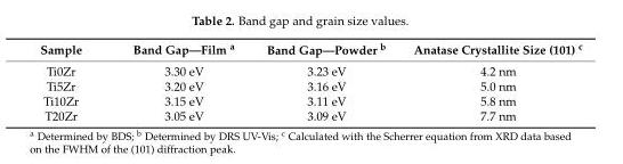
<table><thead><tr><td>Sample</td><td>Band Gap—Film <sup>a</sup></td><td>Band Gap—Powder <sup>b</sup></td><td>Anatase Crystallite Size (101) <sup>c</sup></td></tr></thead><tbody><tr><td>Ti0Zr</td><td>3.30 eV</td><td>3.23 eV</td><td>4.2 nm</td></tr><tr><td>Ti5Zr</td><td>3.20 eV</td><td>3.16 eV</td><td>5.0 nm</td></tr><tr><td>Ti10Zr</td><td>3.15 eV</td><td>3.11 eV</td><td>5.8 nm</td></tr><tr><td>T20Zr</td><td>3.05 eV</td><td>3.09 eV</td><td>7.7 nm</td></tr></tbody></table>